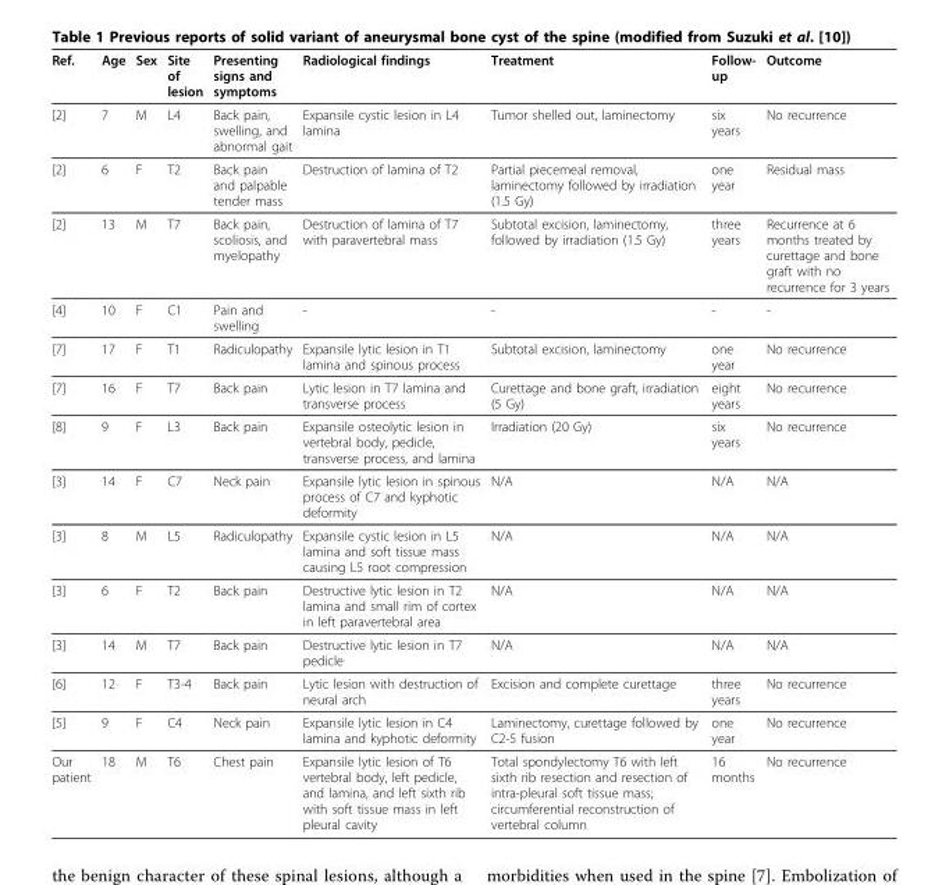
<table><thead><tr><td>Ref.</td><td>Age</td><td>Sex</td><td>Site of lesion</td><td>Presenting signs and symptoms</td><td>Radiological findings</td><td>Treatment</td><td>Follow- up</td><td>Outcome</td></tr></thead><tbody><tr><td>[2]</td><td>7</td><td>M</td><td>L4</td><td>Back pain, swelling, and abnormal gait</td><td>Expansile cystic lesion in L4 lamina</td><td>Tumor shelled out, laminectomy</td><td>six years</td><td>No recurrence</td></tr><tr><td>[2]</td><td>6</td><td>F</td><td>T2</td><td>Back pain and palpable tender mass</td><td>Destruction of lamina of T2</td><td>Partial piecemeal removal, laminectomy followed by irradiation (1.5 Gy)</td><td>one year</td><td>Residual mass</td></tr><tr><td>[2]</td><td>13</td><td>M</td><td>T7</td><td>Back pain, scoliosis, and myelopathy</td><td>Destruction of lamina of T7 with paravertebral mass</td><td>Subtotal excision, laminectomy, followed by irradiation (1.5 Gy)</td><td>three years</td><td>Recurrence at 6 months treated by curettage and bone graft with no recurrence for 3 years</td></tr><tr><td>[4]</td><td>10</td><td>F</td><td>C1</td><td>Pain and swelling</td><td>-</td><td>-</td><td>-</td><td>-</td></tr><tr><td>[7]</td><td>17</td><td>F</td><td>T1</td><td>Radiculopathy</td><td>Expansile lytic lesion in T1 lamina and spinous process</td><td>Subtotal excision, laminectomy</td><td>one year</td><td>No recurrence</td></tr><tr><td>[7]</td><td>16</td><td>F</td><td>T7</td><td>Back pain</td><td>Lytic lesion in T7 lamina and transverse process</td><td>Curettage and bone graft, irradiation (5 Gy)</td><td>eight years</td><td>No recurrence</td></tr><tr><td>[8]</td><td>9</td><td>F</td><td>L3</td><td>Back pain</td><td>Expansile osteolytic lesion in vertebral body, pedicle, transverse process, and lamina</td><td>Irradiation (20 Gy)</td><td>six years</td><td>No recurrence</td></tr><tr><td>[3]</td><td>14</td><td>F</td><td>C7</td><td>Neck pain</td><td>Expansile lytic lesion in spinous process of C7 and kyphotic deformity</td><td>N/A</td><td>N/A</td><td>N/A</td></tr><tr><td>[3]</td><td>8</td><td>M</td><td>L5</td><td>Radiculopathy</td><td>Expansile cystic lesion in L5 lamina and soft tissue mass causing L5 root compression</td><td>N/A</td><td>N/A</td><td>N/A</td></tr><tr><td>[3]</td><td>6</td><td>F</td><td>T2</td><td>Back pain</td><td>Destructive lytic lesion in T2 lamina and small rim of cortex in left paravertebral area</td><td>N/A</td><td>N/A</td><td>N/A</td></tr><tr><td>[3]</td><td>14</td><td>M</td><td>T7</td><td>Back pain</td><td>Destructive lytic lesion in T7 pedicle</td><td>N/A</td><td>N/A</td><td>N/A</td></tr><tr><td>[6]</td><td>12</td><td>F</td><td>T3-4</td><td>Back pain</td><td>Lytic lesion with destruction of neural arch</td><td>Excision and complete curettage</td><td>three years</td><td>No recurrence</td></tr><tr><td>[5]</td><td>9</td><td>F</td><td>C4</td><td>Neck pain</td><td>Expansile lytic lesion in C4 lamina and kyphotic deformity</td><td>Laminectomy, curettage followed by C2-5 fusion</td><td>one year</td><td>No recurrence</td></tr><tr><td>Our patient</td><td>18</td><td>M</td><td>T6</td><td>Chest pain</td><td>Expansile lytic lesion of T6 vertebral body, left pedicle, and lamina, and left sixth rib with soft tissue mass in left pleural cavity</td><td>Total spondylectomy T6 with left sixth rib resection and resection of intra-pleural soft tissue mass; circumferential reconstruction of vertebral column</td><td>16 months</td><td>No recurrence</td></tr></tbody></table>